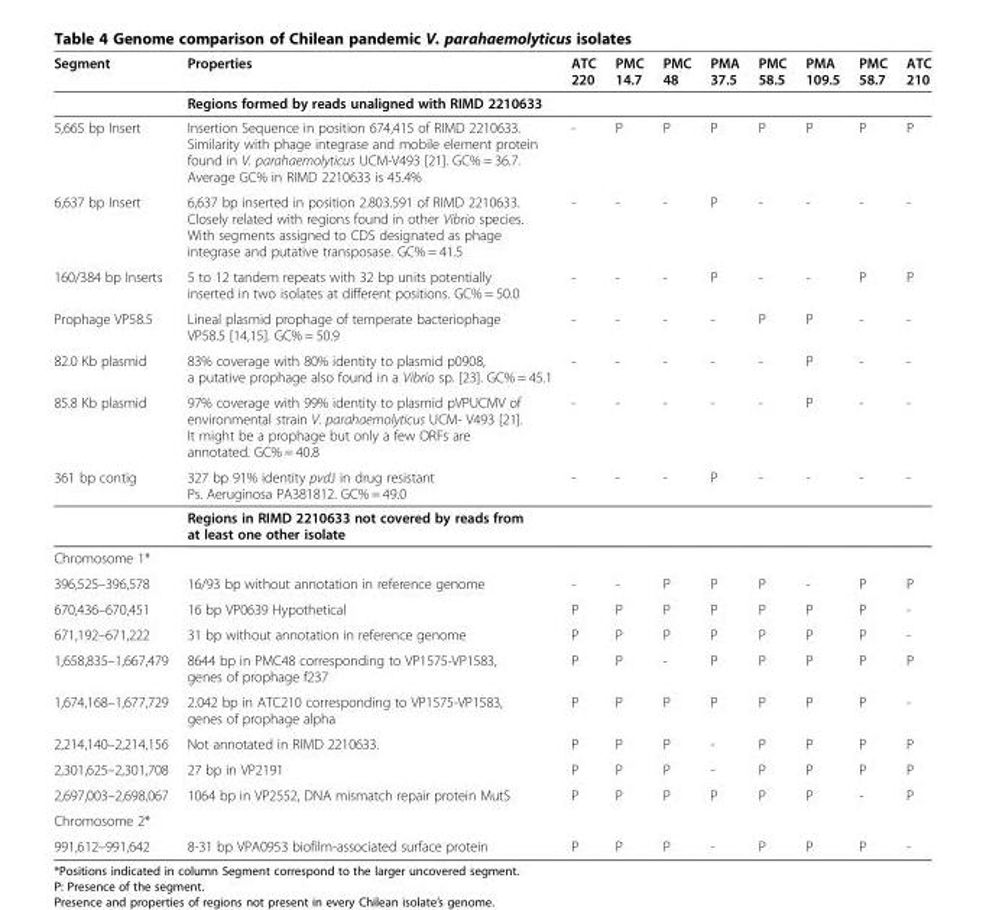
<table><thead><tr><td>Segment</td><td>Properties</td><td>ATC 220</td><td>PMC 14.7</td><td>PMC 48</td><td>PMA 37.5</td><td>PMC 58.5</td><td>PMA 109.5</td><td>PMC 58.7</td><td>ATC 210</td></tr></thead><tbody><tr><td></td><td>Regions formed by reads unaligned with RIMD 2210633</td><td></td><td></td><td></td><td></td><td></td><td></td><td></td><td></td></tr><tr><td>5,665 bp Insert</td><td>Insertion Sequence in position 674,415 of RIMD 2210633. Similarity with phage integrase and mobile element protein found in V. parahaemolyticus UCM-V493 [21]. GC% = 36.7. Average GC% in RIMD 2210633 is 45.4%</td><td>-</td><td>P</td><td>P</td><td>P</td><td>P</td><td>P</td><td>P</td><td>P</td></tr><tr><td>6,637 bp Insert</td><td>6,637 bp inserted in position 2.803.591 of RIMD 2210633. Closely related with regions found in other Vibrio species. With segments assigned to CDS designated as phage integrase and putative transposase. GC% = 41.5</td><td>-</td><td>-</td><td>-</td><td>P</td><td>-</td><td>-</td><td>-</td><td>-</td></tr><tr><td>160/384 bp Inserts</td><td>5 to 12 tandem repeats with 32 bp units potentially inserted in two isolates at different positions. GC% = 50.0</td><td>-</td><td>-</td><td>-</td><td>P</td><td>-</td><td>-</td><td>P</td><td>P</td></tr><tr><td>Prophage VP58.5</td><td>Lineal plasmid prophage of temperate bacteriophage VP58.5 [14,15]. GC% = 50.9</td><td>-</td><td>-</td><td>-</td><td>-</td><td>P</td><td>P</td><td>-</td><td>-</td></tr><tr><td>82.0 Kb plasmid</td><td>83% coverage with 80% identity to plasmid p0908, a putative prophage also found in a Vibrio sp. [23]. GC% = 45.1</td><td>-</td><td>-</td><td>-</td><td>-</td><td>-</td><td>P</td><td>-</td><td>-</td></tr><tr><td>85.8 Kb plasmid</td><td>97% coverage with 99% identity to plasmid pVPUCMV of environmental strain V. parahaemolyticus UCM- V493 [21]. It might be a prophage but only a few ORFs are annotated. GC% = 40.8</td><td>-</td><td>-</td><td>-</td><td>-</td><td>-</td><td>P</td><td>-</td><td>-</td></tr><tr><td rowspan="2">361 bp contig</td><td>327 bp 91% identity pvdJ in drug resistant Ps. Aeruginosa PA381812. GC% = 49.0</td><td>-</td><td>-</td><td>-</td><td>P</td><td>-</td><td>-</td><td>-</td><td>-</td></tr><tr><td>Regions in RIMD 2210633 not covered by reads from at least one other isolate</td><td></td><td></td><td></td><td></td><td></td><td></td><td></td><td></td></tr><tr><td colspan="10">Chromosome 1*</td></tr><tr><td>396,525–396,578</td><td>16/93 bp without annotation in reference genome</td><td>-</td><td>-</td><td>P</td><td>P</td><td>P</td><td>-</td><td>P</td><td>P</td></tr><tr><td>670,436–670,451</td><td>16 bp VP0639 Hypothetical</td><td>P</td><td>P</td><td>P</td><td>P</td><td>P</td><td>P</td><td>P</td><td>-</td></tr><tr><td>671,192–671,222</td><td>31 bp without annotation in reference genome</td><td>P</td><td>P</td><td>P</td><td>P</td><td>P</td><td>P</td><td>P</td><td>-</td></tr><tr><td>1,658,835–1,667,479</td><td>8644 bp in PMC48 corresponding to VP1575-VP1583, genes of prophage f237</td><td>P</td><td>P</td><td>-</td><td>P</td><td>P</td><td>P</td><td>P</td><td>P</td></tr><tr><td>1,674,168–1,677,729</td><td>2.042 bp in ATC210 corresponding to VP1575-VP1583, genes of prophage alpha</td><td>P</td><td>P</td><td>P</td><td>P</td><td>P</td><td>P</td><td>P</td><td>-</td></tr><tr><td>2,214,140–2,214,156</td><td>Not annotated in RIMD 2210633.</td><td>P</td><td>P</td><td>P</td><td>-</td><td>P</td><td>P</td><td>P</td><td>P</td></tr><tr><td>2,301,625–2,301,708</td><td>27 bp in VP2191</td><td>P</td><td>P</td><td>P</td><td>-</td><td>P</td><td>P</td><td>P</td><td>P</td></tr><tr><td>2,697,003–2,698,067</td><td>1064 bp in VP2552, DNA mismatch repair protein MutS</td><td>P</td><td>P</td><td>P</td><td>P</td><td>P</td><td>P</td><td>-</td><td>P</td></tr><tr><td colspan="10">Chromosome 2*</td></tr><tr><td>991,612–991,642</td><td>8-31 bp VPA0953 biofilm-associated surface protein</td><td>P</td><td>P</td><td>P</td><td>-</td><td>P</td><td>P</td><td>P</td><td>-</td></tr></tbody></table>